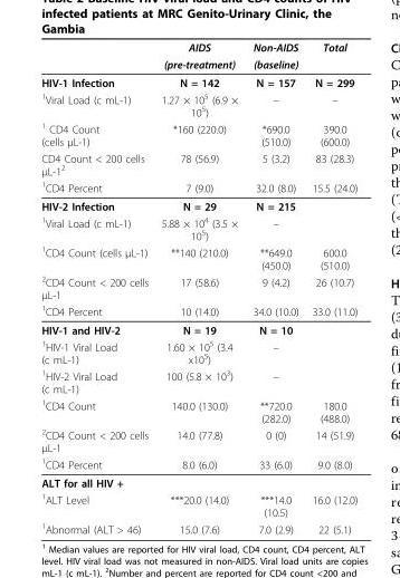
<table><thead><tr><td rowspan="2"></td><td rowspan="2">AIDS (pre-treatment)</td><td rowspan="2">Non-AIDS (baseline)</td><td rowspan="2">Total</td></tr><tr></tr></thead><tbody><tr><td>HIV-1 Infection</td><td>N = 142</td><td>N = 157</td><td>N = 299</td></tr><tr><td><sup>1</sup>Viral Load (c mL-1)</td><td>1.27 × 10<sup>5</sup> (6.9 × 10<sup>5</sup>)</td><td>–</td><td>–</td></tr><tr><td><sup>1</sup> CD4 Count (cells μL-1)</td><td>*160 (220.0)</td><td>*690.0 (510.0)</td><td>390.0 (600.0)</td></tr><tr><td>CD4 Count &lt; 200 cells μL-1<sup>2</sup></td><td>78 (56.9)</td><td>5 (3.2)</td><td>83 (28.3)</td></tr><tr><td><sup>1</sup>CD4 Percent</td><td>7 (9.0)</td><td>32.0 (8.0)</td><td>15.5 (24.0)</td></tr><tr><td>HIV-2 Infection</td><td>N = 29</td><td>N = 215</td><td></td></tr><tr><td><sup>1</sup>Viral Load (c mL-1)</td><td>5.88 × 10<sup>4</sup> (3.5 × 10<sup>5</sup>)</td><td>–</td><td></td></tr><tr><td><sup>1</sup>CD4 Count (cells μL-1)</td><td>**140 (210.0)</td><td>**649.0 (450.0)</td><td>600.0 (510.0)</td></tr><tr><td><sup>2</sup>CD4 Count &lt; 200 cells μL-1</td><td>17 (58.6)</td><td>9 (4.2)</td><td>26 (10.7)</td></tr><tr><td><sup>1</sup>CD4 Percent</td><td>10 (14.0)</td><td>34.0 (10.0)</td><td>33.0 (11.0)</td></tr><tr><td>HIV-1 and HIV-2</td><td>N = 19</td><td>N = 10</td><td></td></tr><tr><td><sup>1</sup>HIV-1 Viral Load (c mL-1)</td><td>1.60 × 10<sup>5</sup> (3.4 x10<sup>5</sup>)</td><td>–</td><td></td></tr><tr><td><sup>1</sup>HIV-2 Viral Load (c mL-1)</td><td>100 (5.8 × 10<sup>3</sup>)</td><td>–</td><td></td></tr><tr><td><sup>1</sup>CD4 Count</td><td>140.0 (130.0)</td><td>**720.0 (282.0)</td><td>180.0 (488.0)</td></tr><tr><td><sup>2</sup>CD4 Count &lt; 200 cells μL-1</td><td>14.0 (77.8)</td><td>0 (0)</td><td>14 (51.9)</td></tr><tr><td><sup>1</sup>CD4 Percent</td><td>8.0 (6.0)</td><td>33 (6.0)</td><td>9.0 (8.0)</td></tr><tr><td colspan="4">ALT for all HIV +</td></tr><tr><td><sup>1</sup>ALT Level</td><td>***20.0 (14.0)</td><td>***14.0 (10.5)</td><td>16.0 (12.0)</td></tr><tr><td><sup>1</sup>Abnormal (ALT &gt; 46)</td><td>15.0 (7.6)</td><td>7.0 (2.9)</td><td>22 (5.1)</td></tr></tbody></table>